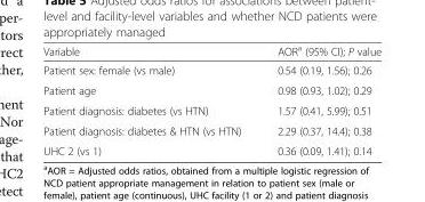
<table><thead><tr><td>Variable</td><td>AOR<sup>a</sup> (95% CI); P value</td></tr></thead><tbody><tr><td>Patient sex: female (vs male)</td><td>0.54 (0.19, 1.56); 0.26</td></tr><tr><td>Patient age</td><td>0.98 (0.93, 1.02); 0.29</td></tr><tr><td>Patient diagnosis: diabetes (vs HTN)</td><td>1.57 (0.41, 5.99); 0.51</td></tr><tr><td>Patient diagnosis: diabetes &amp; HTN (vs HTN)</td><td>2.29 (0.37, 14.4); 0.38</td></tr><tr><td>UHC 2 (vs 1)</td><td>0.36 (0.09, 1.41); 0.14</td></tr></tbody></table>